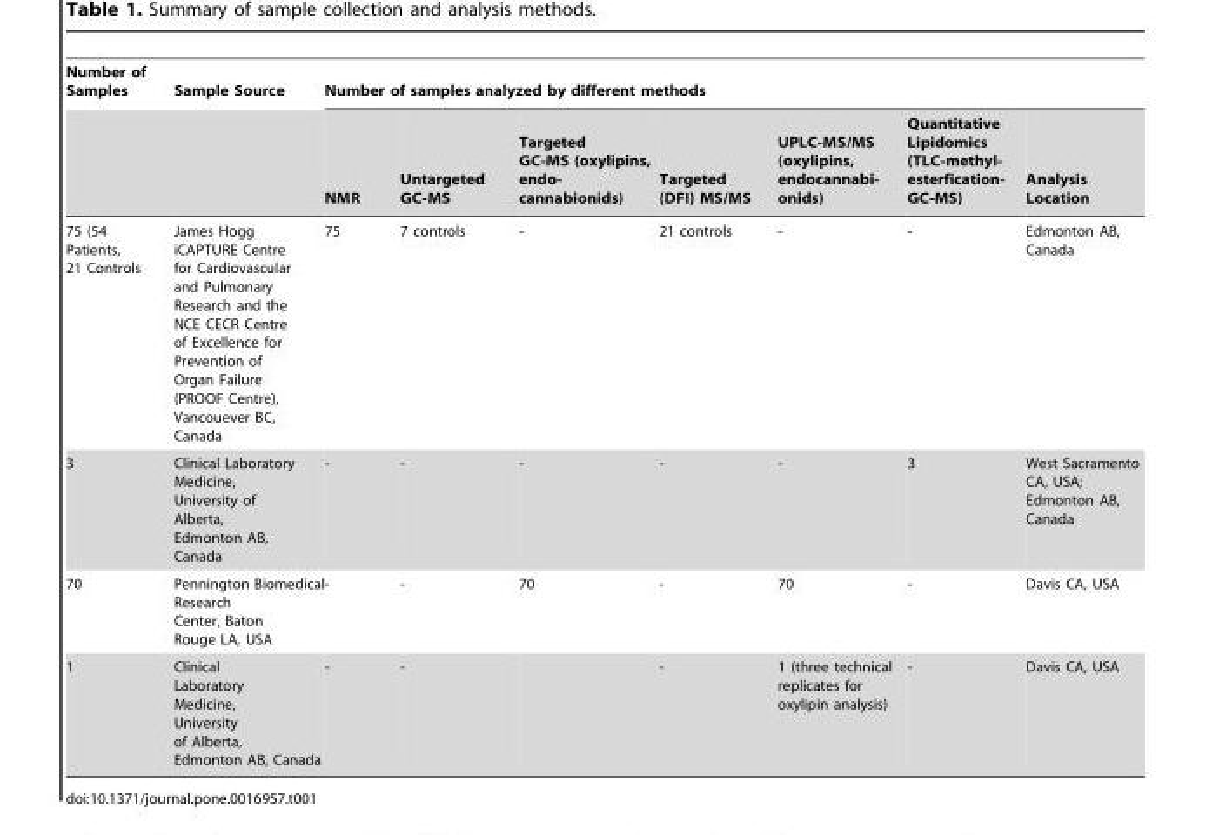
<table><thead><tr><td rowspan="2">Number of Samples</td><td rowspan="2">Sample Source</td><td colspan="7">Number of samples analyzed by different methods</td></tr><tr><td>NMR</td><td>Untargeted GC-MS</td><td>Targeted GC-MS (oxylipins, endo- cannabionids)</td><td>Targeted (DFI) MS/MS</td><td>UPLC-MS/MS (oxylipins, endocannabi- onids)</td><td>Quantitative Lipidomics (TLC-methyl- esterfication- GC-MS)</td><td>Analysis Location</td></tr></thead><tbody><tr><td>75 (54 Patients, 21 Controls</td><td>James Hogg iCAPTURE Centre for Cardiovascular and Pulmonary Research and the NCE CECR Centre of Excellence for Prevention of Organ Failure (PROOF Centre), Vancouever BC, Canada</td><td>75</td><td>7 controls</td><td>-</td><td>21 controls</td><td>-</td><td>-</td><td>Edmonton AB, Canada</td></tr><tr><td>3</td><td>Clinical Laboratory Medicine, University of Alberta, Edmonton AB, Canada</td><td>-</td><td>-</td><td>-</td><td>-</td><td>-</td><td>3</td><td>West Sacramento CA, USA; Edmonton AB, Canada</td></tr><tr><td>70</td><td>Pennington Biomedical Research Center, Baton Rouge LA, USA</td><td>-</td><td>-</td><td>70</td><td>-</td><td>70</td><td>-</td><td>Davis CA, USA</td></tr><tr><td>1</td><td>Clinical Laboratory Medicine, University of Alberta, Edmonton AB, Canada</td><td>-</td><td>-</td><td></td><td>-</td><td>1 (three technical replicates for oxylipin analysis)</td><td>-</td><td>Davis CA, USA</td></tr></tbody></table>